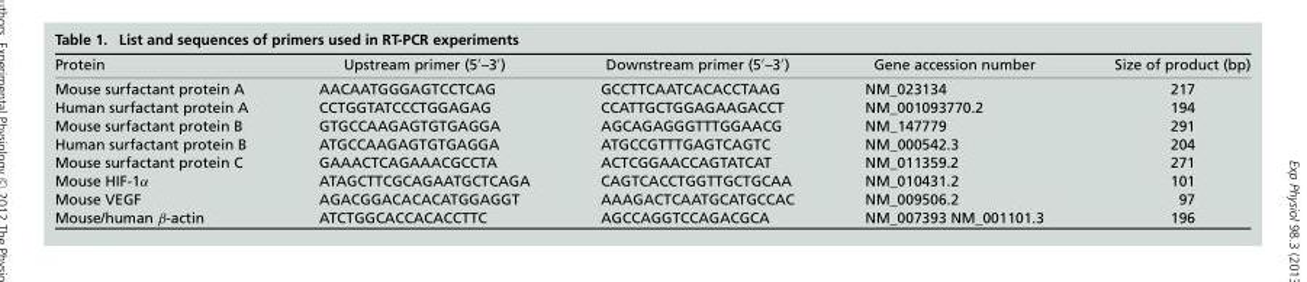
<table><thead><tr><td>Protein</td><td>Upstream primer (5′–3′)</td><td>Downstream primer (5′–3′)</td><td>Gene accession number</td><td>Size of product (bp)</td></tr></thead><tbody><tr><td>Mouse surfactant protein A</td><td>AACAATGGGAGTCCTCAG</td><td>GCCTTCAATCACACCTAAG</td><td>NM_023134</td><td>217</td></tr><tr><td>Human surfactant protein A</td><td>CCTGGTATCCCTGGAGAG</td><td>CCATTGCTGGAGAAGACCT</td><td>NM_001093770.2</td><td>194</td></tr><tr><td>Mouse surfactant protein B</td><td>GTGCCAAGAGTGTGAGGA</td><td>AGCAGAGGGTTTGGAACG</td><td>NM_147779</td><td>291</td></tr><tr><td>Human surfactant protein B</td><td>ATGCCAAGAGTGTGAGGA</td><td>ATGCCGTTTGAGTCAGTC</td><td>NM_000542.3</td><td>204</td></tr><tr><td>Mouse surfactant protein C</td><td>GAAACTCAGAAACGCCTA</td><td>ACTCGGAACCAGTATCAT</td><td>NM_011359.2</td><td>271</td></tr><tr><td>Mouse HIF-1α</td><td>ATAGCTTCGCAGAATGCTCAGA</td><td>CAGTCACCTGGTTGCTGCAA</td><td>NM_010431.2</td><td>101</td></tr><tr><td>Mouse VEGF</td><td>AGACGGACACACATGGAGGT</td><td>AAAGACTCAATGCATGCCAC</td><td>NM_009506.2</td><td>97</td></tr><tr><td>Mouse/human β-actin</td><td>ATCTGGCACCACACCTTC</td><td>AGCCAGGTCCAGACGCA</td><td>NM_007393 NM_001101.3</td><td>196</td></tr></tbody></table>